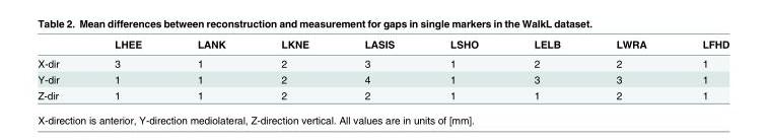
<table><thead><tr><td></td><td>LHEE</td><td>LANK</td><td>LKNE</td><td>LASIS</td><td>LSHO</td><td>LELB</td><td>LWRA</td><td>LFHD</td></tr></thead><tbody><tr><td>X-dir</td><td>3</td><td>1</td><td>2</td><td>3</td><td>1</td><td>2</td><td>2</td><td>1</td></tr><tr><td>Y-dir</td><td>1</td><td>1</td><td>2</td><td>4</td><td>1</td><td>3</td><td>3</td><td>1</td></tr><tr><td>Z-dir</td><td>1</td><td>1</td><td>2</td><td>2</td><td>1</td><td>1</td><td>2</td><td>1</td></tr></tbody></table>